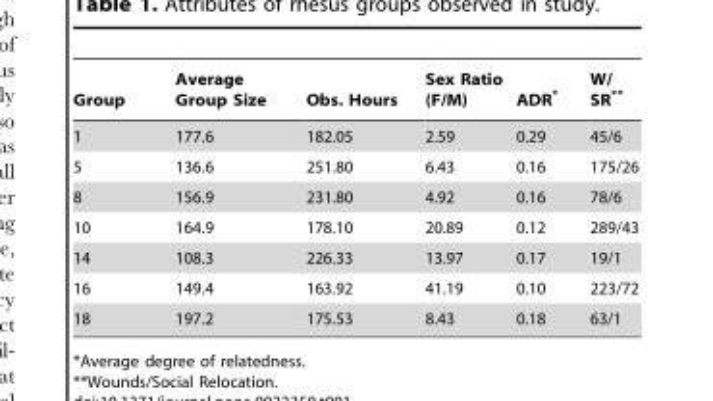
<table><thead><tr><td>Group</td><td>Average Group Size</td><td>Obs. Hours</td><td>Sex Ratio (F/M)</td><td>ADR*</td><td>W/ SR**</td></tr></thead><tbody><tr><td>1</td><td>177.6</td><td>182.05</td><td>2.59</td><td>0.29</td><td>45/6</td></tr><tr><td>5</td><td>136.6</td><td>251.80</td><td>6.43</td><td>0.16</td><td>175/26</td></tr><tr><td>8</td><td>156.9</td><td>231.80</td><td>4.92</td><td>0.16</td><td>78/6</td></tr><tr><td>10</td><td>164.9</td><td>178.10</td><td>20.89</td><td>0.12</td><td>289/43</td></tr><tr><td>14</td><td>108.3</td><td>226.33</td><td>13.97</td><td>0.17</td><td>19/1</td></tr><tr><td>16</td><td>149.4</td><td>163.92</td><td>41.19</td><td>0.10</td><td>223/72</td></tr><tr><td>18</td><td>197.2</td><td>175.53</td><td>8.43</td><td>0.18</td><td>63/1</td></tr></tbody></table>